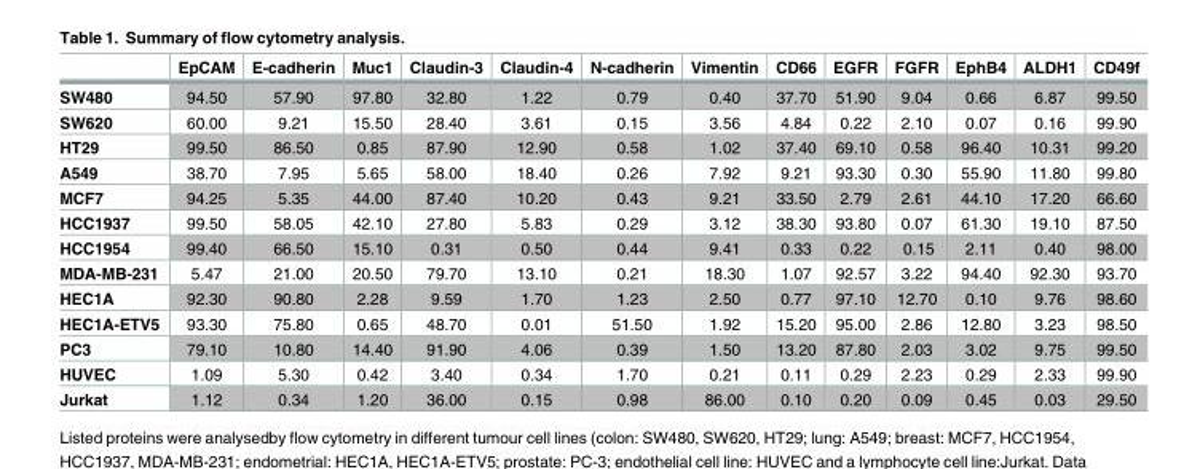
<table><thead><tr><td></td><td>EpCAM</td><td>E-cadherin</td><td>Muc1</td><td>Claudin-3</td><td>Claudin-4</td><td>N-cadherin</td><td>Vimentin</td><td>CD66</td><td>EGFR</td><td>FGFR</td><td>EphB4</td><td>ALDH1</td><td>CD49f</td></tr></thead><tbody><tr><td>SW480</td><td>94.50</td><td>57.90</td><td>97.80</td><td>32.80</td><td>1.22</td><td>0.79</td><td>0.40</td><td>37.70</td><td>51.90</td><td>9.04</td><td>0.66</td><td>6.87</td><td>99.50</td></tr><tr><td>SW620</td><td>60.00</td><td>9.21</td><td>15.50</td><td>28.40</td><td>3.61</td><td>0.15</td><td>3.56</td><td>4.84</td><td>0.22</td><td>2.10</td><td>0.07</td><td>0.16</td><td>99.90</td></tr><tr><td>HT29</td><td>99.50</td><td>86.50</td><td>0.85</td><td>87.90</td><td>12.90</td><td>0.58</td><td>1.02</td><td>37.40</td><td>69.10</td><td>0.58</td><td>96.40</td><td>10.31</td><td>99.20</td></tr><tr><td>A549</td><td>38.70</td><td>7.95</td><td>5.65</td><td>58.00</td><td>18.40</td><td>0.26</td><td>7.92</td><td>9.21</td><td>93.30</td><td>0.30</td><td>55.90</td><td>11.80</td><td>99.80</td></tr><tr><td>MCF7</td><td>94.25</td><td>5.35</td><td>44.00</td><td>87.40</td><td>10.20</td><td>0.43</td><td>9.21</td><td>33.50</td><td>2.79</td><td>2.61</td><td>44.10</td><td>17.20</td><td>66.60</td></tr><tr><td>HCC1937</td><td>99.50</td><td>58.05</td><td>42.10</td><td>27.80</td><td>5.83</td><td>0.29</td><td>3.12</td><td>38.30</td><td>93.80</td><td>0.07</td><td>61.30</td><td>19.10</td><td>87.50</td></tr><tr><td>HCC1954</td><td>99.40</td><td>66.50</td><td>15.10</td><td>0.31</td><td>0.50</td><td>0.44</td><td>9.41</td><td>0.33</td><td>0.22</td><td>0.15</td><td>2.11</td><td>0.40</td><td>98.00</td></tr><tr><td>MDA-MB-231</td><td>5.47</td><td>21.00</td><td>20.50</td><td>79.70</td><td>13.10</td><td>0.21</td><td>18.30</td><td>1.07</td><td>92.57</td><td>3.22</td><td>94.40</td><td>92.30</td><td>93.70</td></tr><tr><td>HEC1A</td><td>92.30</td><td>90.80</td><td>2.28</td><td>9.59</td><td>1.70</td><td>1.23</td><td>2.50</td><td>0.77</td><td>97.10</td><td>12.70</td><td>0.10</td><td>9.76</td><td>98.60</td></tr><tr><td>HEC1A-ETV5</td><td>93.30</td><td>75.80</td><td>0.65</td><td>48.70</td><td>0.01</td><td>51.50</td><td>1.92</td><td>15.20</td><td>95.00</td><td>2.86</td><td>12.80</td><td>3.23</td><td>98.50</td></tr><tr><td>PC3</td><td>79.10</td><td>10.80</td><td>14.40</td><td>91.90</td><td>4.06</td><td>0.39</td><td>1.50</td><td>13.20</td><td>87.80</td><td>2.03</td><td>3.02</td><td>9.75</td><td>99.50</td></tr><tr><td>HUVEC</td><td>1.09</td><td>5.30</td><td>0.42</td><td>3.40</td><td>0.34</td><td>1.70</td><td>0.21</td><td>0.11</td><td>0.29</td><td>2.23</td><td>0.29</td><td>2.33</td><td>99.90</td></tr><tr><td>Jurkat</td><td>1.12</td><td>0.34</td><td>1.20</td><td>36.00</td><td>0.15</td><td>0.98</td><td>86.00</td><td>0.10</td><td>0.20</td><td>0.09</td><td>0.45</td><td>0.03</td><td>29.50</td></tr></tbody></table>